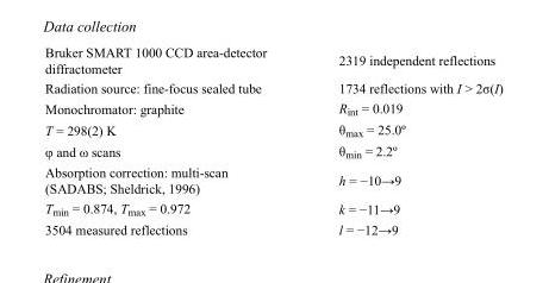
<table><tbody><tr><td>Bruker SMART 1000 CCD area-detector diffractometer</td><td>2319 independent reflections</td></tr><tr><td>Radiation source: fine-focus sealed tube</td><td>1734 reflections with I &gt; 2σ(I)</td></tr><tr><td>Monochromator: graphite</td><td>R<sub>int</sub> = 0.019</td></tr><tr><td>T = 298(2) K</td><td>θ<sub>max</sub> = 25.0º</td></tr><tr><td>φ and ω scans</td><td>θ<sub>min</sub> = 2.2º</td></tr><tr><td>Absorption correction: multi-scan (SADABS; Sheldrick, 1996)</td><td>h = −10→9</td></tr><tr><td>T<sub>min</sub> = 0.874, T<sub>max</sub> = 0.972</td><td>k = −11→9</td></tr><tr><td>3504 measured reflections</td><td>l = −12→9</td></tr></tbody></table>